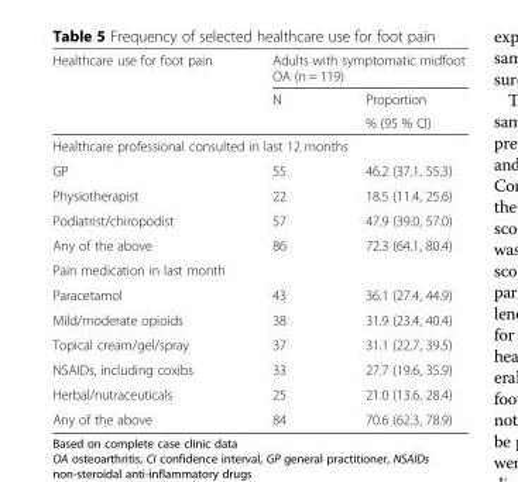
<table><thead><tr><td rowspan="3">Healthcare use for foot pain</td><td colspan="2">Adults with symptomatic midfoot OA (n = 119)</td></tr><tr><td rowspan="2">N</td><td rowspan="2">Proportion % (95 % CI)</td></tr><tr></tr></thead><tbody><tr><td colspan="3">Healthcare professional consulted in last 12 months</td></tr><tr><td>GP</td><td>55</td><td>46.2 (37.1, 55.3)</td></tr><tr><td>Physiotherapist</td><td>22</td><td>18.5 (11.4, 25.6)</td></tr><tr><td>Podiatrist/chiropodist</td><td>57</td><td>47.9 (39.0, 57.0)</td></tr><tr><td>Any of the above</td><td>86</td><td>72.3 (64.1, 80.4)</td></tr><tr><td colspan="3">Pain medication in last month</td></tr><tr><td>Paracetamol</td><td>43</td><td>36.1 (27.4, 44.9)</td></tr><tr><td>Mild/moderate opioids</td><td>38</td><td>31.9 (23.4, 40.4)</td></tr><tr><td>Topical cream/gel/spray</td><td>37</td><td>31.1 (22.7, 39.5)</td></tr><tr><td>NSAIDs, including coxibs</td><td>33</td><td>27.7 (19.6, 35.9)</td></tr><tr><td>Herbal/nutraceuticals</td><td>25</td><td>21.0 (13.6, 28.4)</td></tr><tr><td>Any of the above</td><td>84</td><td>70.6 (62.3, 78.9)</td></tr></tbody></table>